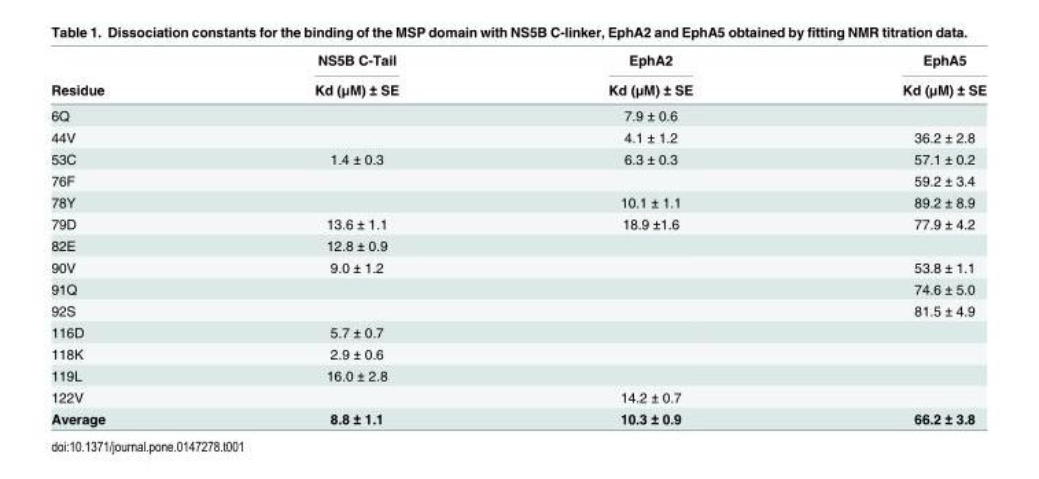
<table><thead><tr><td rowspan="2">Residue</td><td rowspan="2">NS5B C-Tail Kd (μM) ± SE</td><td rowspan="2">EphA2 Kd (μM) ± SE</td><td rowspan="2">EphA5 Kd (μM) ± SE</td></tr><tr></tr></thead><tbody><tr><td>6Q</td><td></td><td>7.9 ± 0.6</td><td></td></tr><tr><td>44V</td><td></td><td>4.1 ± 1.2</td><td>36.2 ± 2.8</td></tr><tr><td>53C</td><td>1.4 ± 0.3</td><td>6.3 ± 0.3</td><td>57.1 ± 0.2</td></tr><tr><td>76F</td><td></td><td></td><td>59.2 ± 3.4</td></tr><tr><td>78Y</td><td></td><td>10.1 ± 1.1</td><td>89.2 ± 8.9</td></tr><tr><td>79D</td><td>13.6 ± 1.1</td><td>18.9 ±1.6</td><td>77.9 ± 4.2</td></tr><tr><td>82E</td><td>12.8 ± 0.9</td><td></td><td></td></tr><tr><td>90V</td><td>9.0 ± 1.2</td><td></td><td>53.8 ± 1.1</td></tr><tr><td>91Q</td><td></td><td></td><td>74.6 ± 5.0</td></tr><tr><td>92S</td><td></td><td></td><td>81.5 ± 4.9</td></tr><tr><td>116D</td><td>5.7 ± 0.7</td><td></td><td></td></tr><tr><td>118K</td><td>2.9 ± 0.6</td><td></td><td></td></tr><tr><td>119L</td><td>16.0 ± 2.8</td><td></td><td></td></tr><tr><td>122V</td><td></td><td>14.2 ± 0.7</td><td></td></tr><tr><td>Average</td><td>8.8 ± 1.1</td><td>10.3 ± 0.9</td><td>66.2 ± 3.8</td></tr></tbody></table>